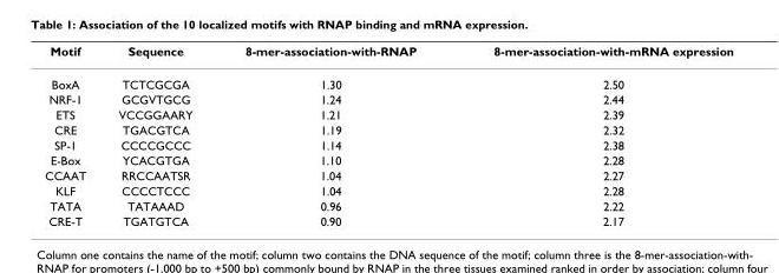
<table><thead><tr><td>Motif</td><td>Sequence</td><td>8-mer-association-with-RNAP</td><td>8-mer-association-with-mRNA expression</td></tr></thead><tbody><tr><td>BoxA</td><td>TCTCGCGA</td><td>1.30</td><td>2.50</td></tr><tr><td>NRF-1</td><td>GCGVTGCG</td><td>1.24</td><td>2.44</td></tr><tr><td>ETS</td><td>VCCGGAARY</td><td>1.21</td><td>2.39</td></tr><tr><td>CRE</td><td>TGACGTCA</td><td>1.19</td><td>2.32</td></tr><tr><td>SP-1</td><td>CCCCGCCC</td><td>1.14</td><td>2.38</td></tr><tr><td>E-Box</td><td>YCACGTGA</td><td>1.10</td><td>2.28</td></tr><tr><td>CCAAT</td><td>RRCCAATSR</td><td>1.04</td><td>2.27</td></tr><tr><td>KLF</td><td>CCCCTCCC</td><td>1.04</td><td>2.28</td></tr><tr><td>TATA</td><td>TATAAAD</td><td>0.96</td><td>2.22</td></tr><tr><td>CRE-T</td><td>TGATGTCA</td><td>0.90</td><td>2.17</td></tr></tbody></table>